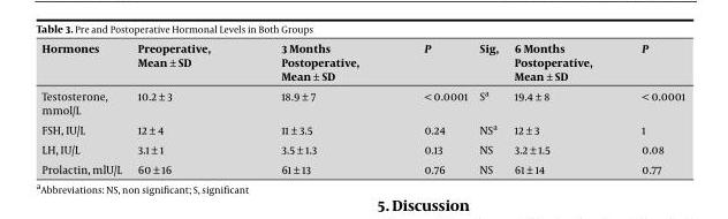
<table><thead><tr><td>Hormones</td><td>Preoperative, Mean ± SD</td><td>3 Months Postoperative, Mean ± SD</td><td>P</td><td>Sig,</td><td>6 Months Postoperative, Mean ± SD</td><td>P</td></tr></thead><tbody><tr><td>Testosterone, mmol/l</td><td>10.2 ± 3</td><td>18.9 ± 7</td><td>&lt; 0.0001</td><td>Sa</td><td>19.4 ± 8</td><td>&lt; 0.0001</td></tr><tr><td>FSh, IU/l</td><td>12 ± 4</td><td>11 ± 3.5</td><td>0.24</td><td>NSa</td><td>12 ± 3</td><td>1</td></tr><tr><td>lh, IU/l</td><td>3.1 ± 1</td><td>3.5 ± 1.3</td><td>0.13</td><td>NS</td><td>3.2 ± 1.5</td><td>0.08</td></tr><tr><td>Prolactin, mlU/l</td><td>60 ± 16</td><td>61 ± 13</td><td>0.76</td><td>NS</td><td>61 ± 14</td><td>0.77</td></tr></tbody></table>